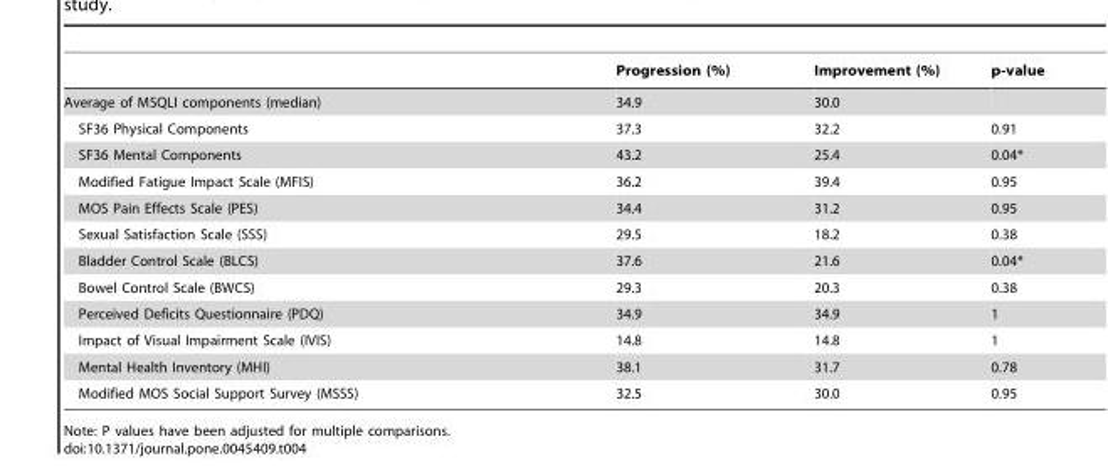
<table><thead><tr><td></td><td>Progression (%)</td><td>Improvement (%)</td><td>p-value</td></tr></thead><tbody><tr><td>Average of MSQLI components (median)</td><td>34.9</td><td>30.0</td><td></td></tr><tr><td>SF36 Physical Components</td><td>37.3</td><td>32.2</td><td>0.91</td></tr><tr><td>SF36 Mental Components</td><td>43.2</td><td>25.4</td><td>0.04*</td></tr><tr><td>Modified Fatigue Impact Scale (MFIS)</td><td>36.2</td><td>39.4</td><td>0.95</td></tr><tr><td>MOS Pain Effects Scale (PES)</td><td>34.4</td><td>31.2</td><td>0.95</td></tr><tr><td>Sexual Satisfaction Scale (SSS)</td><td>29.5</td><td>18.2</td><td>0.38</td></tr><tr><td>Bladder Control Scale (BLCS)</td><td>37.6</td><td>21.6</td><td>0.04*</td></tr><tr><td>Bowel Control Scale (BWCS)</td><td>29.3</td><td>20.3</td><td>0.38</td></tr><tr><td>Perceived Deficits Questionnaire (PDQ)</td><td>34.9</td><td>34.9</td><td>1</td></tr><tr><td>Impact of Visual Impairment Scale (IVIS)</td><td>14.8</td><td>14.8</td><td>1</td></tr><tr><td>Mental Health Inventory (MHI)</td><td>38.1</td><td>31.7</td><td>0.78</td></tr><tr><td>Modified MOS Social Support Survey (MSSS)</td><td>32.5</td><td>30.0</td><td>0.95</td></tr></tbody></table>